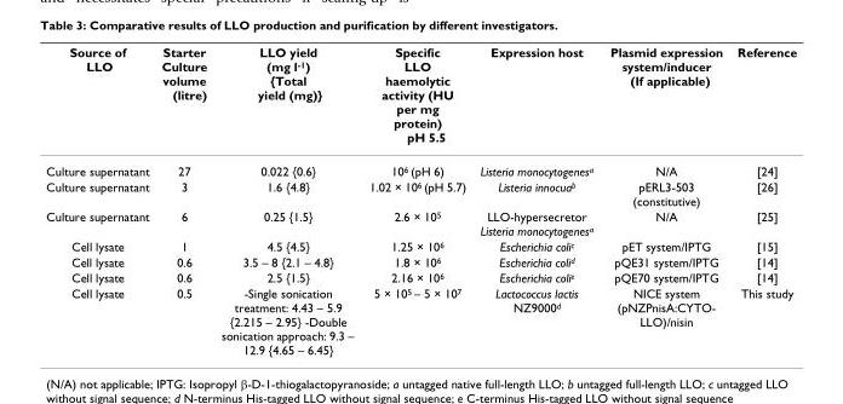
<table><thead><tr><td>Source of LLO</td><td>Starter Culture volume (litre)</td><td>LLO yield (mg l<sup>-1</sup>) {Total yield (mg)}</td><td>Specific LLO haemolytic activity (HU per mg protein) pH 5.5</td><td>Expression host</td><td>Plasmid expression system/inducer (If applicable)</td><td>Reference</td></tr></thead><tbody><tr><td>Culture supernatant</td><td>27</td><td>0.022 {0.6}</td><td>10<sup>6</sup> (pH 6)</td><td>Listeria monocytogenes<sup>a</sup></td><td>N/A</td><td>[24]</td></tr><tr><td>Culture supernatant</td><td>3</td><td>1.6 {4.8}</td><td>1.02 × 10<sup>6</sup> (pH 5.7)</td><td>Listeria innocua<sup>b</sup></td><td>pERL3-503 (constitutive)</td><td>[26]</td></tr><tr><td>Culture supernatant</td><td>6</td><td>0.25 {1.5}</td><td>2.6 × 10<sup>5</sup></td><td>LLO-hypersecretor Listeria monocytogenes<sup>a</sup></td><td>N/A</td><td>[25]</td></tr><tr><td>Cell lysate</td><td>1</td><td>4.5 {4.5}</td><td>1.25 × 10<sup>6</sup></td><td>Escherichia coli<sup>c</sup></td><td>pET system/IPTG</td><td>[15]</td></tr><tr><td>Cell lysate</td><td>0.6</td><td>3.5 – 8 {2.1 – 4.8}</td><td>1.8 × 10<sup>6</sup></td><td>Escherichia coli<sup>d</sup></td><td>pQE31 system/IPTG</td><td>[14]</td></tr><tr><td>Cell lysate</td><td>0.6</td><td>2.5 {1.5}</td><td>2.16 × 10<sup>6</sup></td><td>Escherichia coli<sup>e</sup></td><td>pQE70 system/IPTG</td><td>[14]</td></tr><tr><td>Cell lysate</td><td>0.5</td><td>-Single sonication treatment: 4.43 – 5.9 {2.215 – 2.95} -Double sonication approach: 9.3 – 12.9 {4.65 – 6.45}</td><td>5 × 10<sup>5</sup> – 5 × 10<sup>7</sup></td><td>Lactococcus lactis NZ9000<sup>d</sup></td><td>NICE system (pNZPnisA:CYTO- LLO)/nisin</td><td>This study</td></tr></tbody></table>